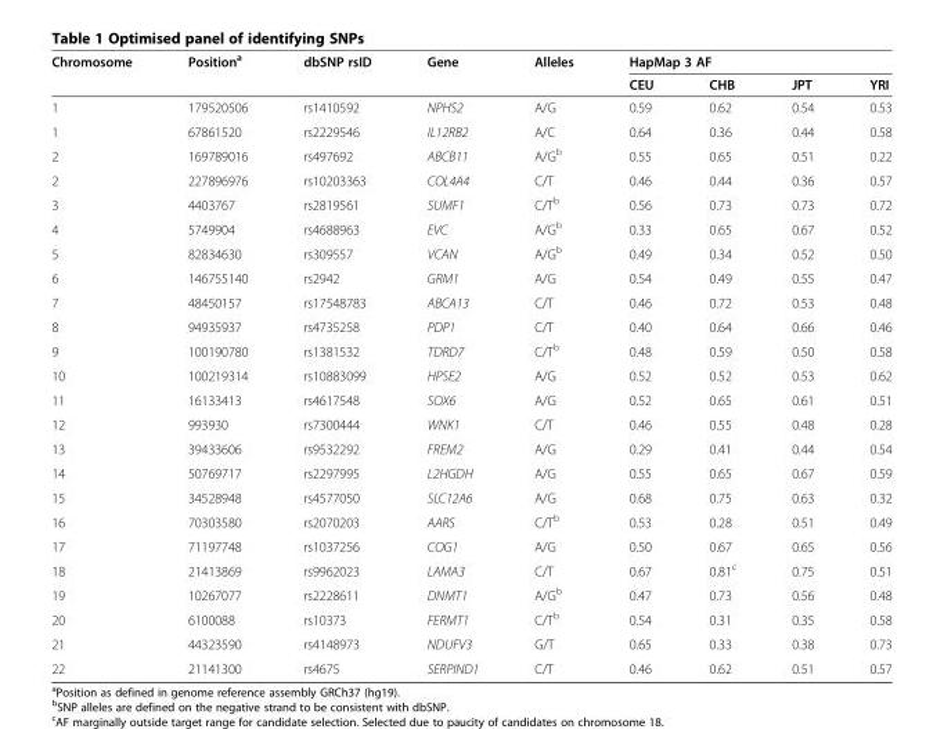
<table><thead><tr><td rowspan="2">Chromosome</td><td rowspan="2">Position<sup>a</sup></td><td rowspan="2">dbSNP rsID</td><td rowspan="2">Gene</td><td rowspan="2">Alleles</td><td colspan="4">HapMap 3 AF</td></tr><tr><td>CEU</td><td>CHB</td><td>JPT</td><td>YRI</td></tr></thead><tbody><tr><td>1</td><td>179520506</td><td>rs1410592</td><td>NPHS2</td><td>A/G</td><td>0.59</td><td>0.62</td><td>0.54</td><td>0.53</td></tr><tr><td>1</td><td>67861520</td><td>rs2229546</td><td>IL12RB2</td><td>A/C</td><td>0.64</td><td>0.36</td><td>0.44</td><td>0.58</td></tr><tr><td>2</td><td>169789016</td><td>rs497692</td><td>ABCB11</td><td>A/G<sup>b</sup></td><td>0.55</td><td>0.65</td><td>0.51</td><td>0.22</td></tr><tr><td>2</td><td>227896976</td><td>rs10203363</td><td>COL4A4</td><td>C/T</td><td>0.46</td><td>0.44</td><td>0.36</td><td>0.57</td></tr><tr><td>3</td><td>4403767</td><td>rs2819561</td><td>SUMF1</td><td>C/T<sup>b</sup></td><td>0.56</td><td>0.73</td><td>0.73</td><td>0.72</td></tr><tr><td>4</td><td>5749904</td><td>rs4688963</td><td>EVC</td><td>A/G<sup>b</sup></td><td>0.33</td><td>0.65</td><td>0.67</td><td>0.52</td></tr><tr><td>5</td><td>82834630</td><td>rs309557</td><td>VCAN</td><td>A/G<sup>b</sup></td><td>0.49</td><td>0.34</td><td>0.52</td><td>0.50</td></tr><tr><td>6</td><td>146755140</td><td>rs2942</td><td>GRM1</td><td>A/G</td><td>0.54</td><td>0.49</td><td>0.55</td><td>0.47</td></tr><tr><td>7</td><td>48450157</td><td>rs17548783</td><td>ABCA13</td><td>C/T</td><td>0.46</td><td>0.72</td><td>0.53</td><td>0.48</td></tr><tr><td>8</td><td>94935937</td><td>rs4735258</td><td>PDP1</td><td>C/T</td><td>0.40</td><td>0.64</td><td>0.66</td><td>0.46</td></tr><tr><td>9</td><td>100190780</td><td>rs1381532</td><td>TDRD7</td><td>C/T<sup>b</sup></td><td>0.48</td><td>0.59</td><td>0.50</td><td>0.58</td></tr><tr><td>10</td><td>100219314</td><td>rs10883099</td><td>HPSE2</td><td>A/G</td><td>0.52</td><td>0.52</td><td>0.53</td><td>0.62</td></tr><tr><td>11</td><td>16133413</td><td>rs4617548</td><td>SOX6</td><td>A/G</td><td>0.52</td><td>0.65</td><td>0.61</td><td>0.51</td></tr><tr><td>12</td><td>993930</td><td>rs7300444</td><td>WNK1</td><td>C/T</td><td>0.46</td><td>0.55</td><td>0.48</td><td>0.28</td></tr><tr><td>13</td><td>39433606</td><td>rs9532292</td><td>FREM2</td><td>A/G</td><td>0.29</td><td>0.41</td><td>0.44</td><td>0.54</td></tr><tr><td>14</td><td>50769717</td><td>rs2297995</td><td>L2HGDH</td><td>A/G</td><td>0.55</td><td>0.65</td><td>0.67</td><td>0.59</td></tr><tr><td>15</td><td>34528948</td><td>rs4577050</td><td>SLC12A6</td><td>A/G</td><td>0.68</td><td>0.75</td><td>0.63</td><td>0.32</td></tr><tr><td>16</td><td>70303580</td><td>rs2070203</td><td>AARS</td><td>C/T<sup>b</sup></td><td>0.53</td><td>0.28</td><td>0.51</td><td>0.49</td></tr><tr><td>17</td><td>71197748</td><td>rs1037256</td><td>COG1</td><td>A/G</td><td>0.50</td><td>0.67</td><td>0.65</td><td>0.56</td></tr><tr><td>18</td><td>21413869</td><td>rs9962023</td><td>LAMA3</td><td>C/T</td><td>0.67</td><td>0.81<sup>c</sup></td><td>0.75</td><td>0.51</td></tr><tr><td>19</td><td>10267077</td><td>rs2228611</td><td>DNMT1</td><td>A/G<sup>b</sup></td><td>0.47</td><td>0.73</td><td>0.56</td><td>0.48</td></tr><tr><td>20</td><td>6100088</td><td>rs10373</td><td>FERMT1</td><td>C/T<sup>b</sup></td><td>0.54</td><td>0.31</td><td>0.35</td><td>0.58</td></tr><tr><td>21</td><td>44323590</td><td>rs4148973</td><td>NDUFV3</td><td>G/T</td><td>0.65</td><td>0.33</td><td>0.38</td><td>0.73</td></tr><tr><td>22</td><td>21141300</td><td>rs4675</td><td>SERPIND1</td><td>C/T</td><td>0.46</td><td>0.62</td><td>0.51</td><td>0.57</td></tr></tbody></table>